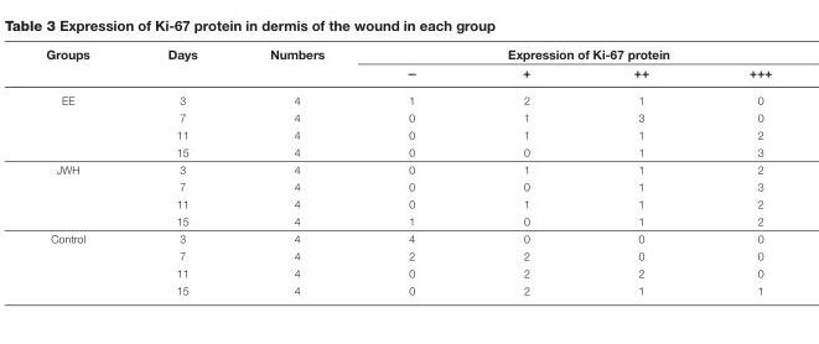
<table><thead><tr><td rowspan="2">Groups</td><td rowspan="2">Days</td><td rowspan="2">Numbers</td><td colspan="4">Expression of Ki-67 protein</td></tr><tr><td>−</td><td>+</td><td>++</td><td>+++</td></tr></thead><tbody><tr><td rowspan="4">EE</td><td>3</td><td>4</td><td>1</td><td>2</td><td>1</td><td>0</td></tr><tr><td>7</td><td>4</td><td>0</td><td>1</td><td>3</td><td>0</td></tr><tr><td>11</td><td>4</td><td>0</td><td>1</td><td>1</td><td>2</td></tr><tr><td>15</td><td>4</td><td>0</td><td>0</td><td>1</td><td>3</td></tr><tr><td rowspan="4">JWH</td><td>3</td><td>4</td><td>0</td><td>1</td><td>1</td><td>2</td></tr><tr><td>7</td><td>4</td><td>0</td><td>0</td><td>1</td><td>3</td></tr><tr><td>11</td><td>4</td><td>0</td><td>1</td><td>1</td><td>2</td></tr><tr><td>15</td><td>4</td><td>1</td><td>0</td><td>1</td><td>2</td></tr><tr><td rowspan="4">Control</td><td>3</td><td>4</td><td>4</td><td>0</td><td>0</td><td>0</td></tr><tr><td>7</td><td>4</td><td>2</td><td>2</td><td>0</td><td>0</td></tr><tr><td>11</td><td>4</td><td>0</td><td>2</td><td>2</td><td>0</td></tr><tr><td>15</td><td>4</td><td>0</td><td>2</td><td>1</td><td>1</td></tr></tbody></table>